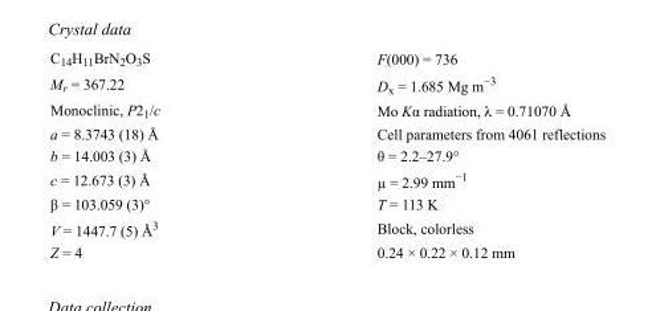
<table><tbody><tr><td>C<sub>14</sub>H<sub>11</sub>BrN<sub>2</sub>O<sub>3</sub>S</td><td>F(000) = 736</td></tr><tr><td>M<sub>r</sub> = 367.22</td><td>D<sub>x</sub> = 1.685 Mg m<sup>−3</sup></td></tr><tr><td>Monoclinic, P2<sub>1</sub>/c</td><td>Mo Kα radiation, λ = 0.71070 Å</td></tr><tr><td>a = 8.3743 (18) Å</td><td>Cell parameters from 4061 reflections</td></tr><tr><td>b = 14.003 (3) Å</td><td>θ = 2.2–27.9°</td></tr><tr><td>c = 12.673 (3) Å</td><td>µ = 2.99 mm<sup>−1</sup></td></tr><tr><td>β = 103.059 (3)°</td><td>T = 113 K</td></tr><tr><td>V = 1447.7 (5) Å<sup>3</sup></td><td>Block, colorless</td></tr><tr><td>Z = 4</td><td>0.24 × 0.22 × 0.12 mm</td></tr></tbody></table>